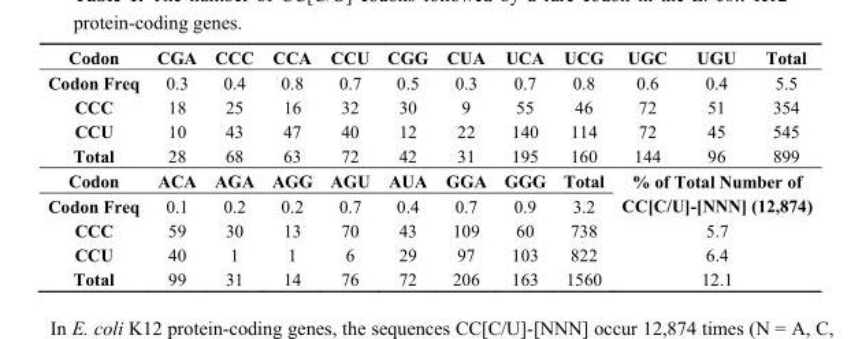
<table><tbody><tr><td>Codon</td><td>CGA</td><td>CCC</td><td>CCA</td><td>CCU</td><td>CGG</td><td>CUA</td><td>UCA</td><td>UCG</td><td>UGC</td><td>UGU</td><td>Total</td></tr><tr><td>Codon Freq</td><td>0.3</td><td>0.4</td><td>0.8</td><td>0.7</td><td>0.5</td><td>0.3</td><td>0.7</td><td>0.8</td><td>0.6</td><td>0.4</td><td>5.5</td></tr><tr><td>CCC</td><td>18</td><td>25</td><td>16</td><td>32</td><td>30</td><td>9</td><td>55</td><td>46</td><td>72</td><td>51</td><td>354</td></tr><tr><td>CCU</td><td>10</td><td>43</td><td>47</td><td>40</td><td>12</td><td>22</td><td>140</td><td>114</td><td>72</td><td>45</td><td>545</td></tr><tr><td>Total</td><td>28</td><td>68</td><td>63</td><td>72</td><td>42</td><td>31</td><td>195</td><td>160</td><td>144</td><td>96</td><td>899</td></tr><tr><td>Codon</td><td>ACA</td><td>AGA</td><td>AGG</td><td>AGU</td><td>AUA</td><td>GGA</td><td>GGG</td><td>Total</td><td rowspan="2" colspan="3">% of Total Number of CC[C/U]-[NNN] (12,874)</td></tr><tr><td>Codon Freq</td><td>0.1</td><td>0.2</td><td>0.2</td><td>0.7</td><td>0.4</td><td>0.7</td><td>0.9</td><td>3.2</td></tr><tr><td>CCC</td><td>59</td><td>30</td><td>13</td><td>70</td><td>43</td><td>109</td><td>60</td><td>738</td><td colspan="3">5.7</td></tr><tr><td>CCU</td><td>40</td><td>1</td><td>1</td><td>6</td><td>29</td><td>97</td><td>103</td><td>822</td><td colspan="3">6.4</td></tr><tr><td>Total</td><td>99</td><td>31</td><td>14</td><td>76</td><td>72</td><td>206</td><td>163</td><td>1560</td><td colspan="3">12.1</td></tr></tbody></table>